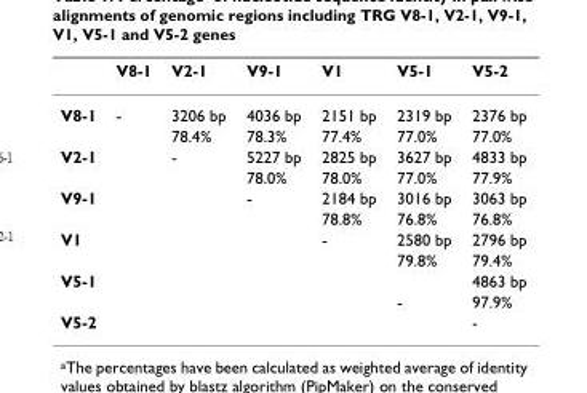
<table><thead><tr><td></td><td>V8-1</td><td>V2-1</td><td>V9-1</td><td>V1</td><td>V5-1</td><td>V5-2</td></tr></thead><tbody><tr><td rowspan="2">V8-1</td><td>-</td><td>3206 bp</td><td>4036 bp</td><td>2151 bp</td><td>2319 bp</td><td>2376 bp</td></tr><tr><td></td><td>78.4%</td><td>78.3%</td><td>77.4%</td><td>77.0%</td><td>77.0%</td></tr><tr><td rowspan="2">V2-1</td><td></td><td>-</td><td>5227 bp</td><td>2825 bp</td><td>3627 bp</td><td>4833 bp</td></tr><tr><td></td><td></td><td>78.0%</td><td>78.0%</td><td>77.0%</td><td>77.9%</td></tr><tr><td rowspan="2">V9-1</td><td></td><td></td><td>-</td><td>2184 bp</td><td>3016 bp</td><td>3063 bp</td></tr><tr><td></td><td></td><td></td><td>78.8%</td><td>76.8%</td><td>76.8%</td></tr><tr><td rowspan="2">V1</td><td></td><td></td><td></td><td>-</td><td>2580 bp</td><td>2796 bp</td></tr><tr><td></td><td></td><td></td><td></td><td>79.8%</td><td>79.4%</td></tr><tr><td rowspan="2">V5-1</td><td></td><td></td><td></td><td></td><td></td><td>4863 bp</td></tr><tr><td></td><td></td><td></td><td></td><td>-</td><td>97.9%</td></tr><tr><td>V5-2</td><td></td><td></td><td></td><td></td><td></td><td>-</td></tr></tbody></table>